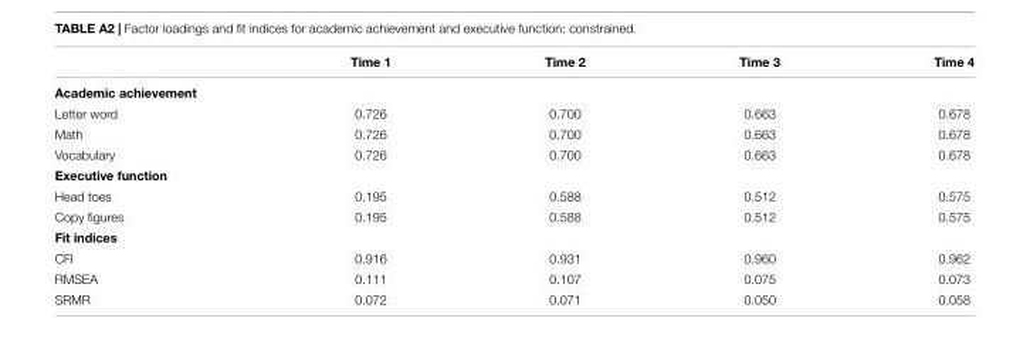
<table><thead><tr><td></td><td>Time 1</td><td>Time 2</td><td>Time 3</td><td>Time 4</td></tr></thead><tbody><tr><td colspan="5">Academic achievement</td></tr><tr><td>Letter word</td><td>0.726</td><td>0.700</td><td>0.663</td><td>0.678</td></tr><tr><td>Math</td><td>0.726</td><td>0.700</td><td>0.663</td><td>0.678</td></tr><tr><td>Vocabulary</td><td>0.726</td><td>0.700</td><td>0.663</td><td>0.678</td></tr><tr><td colspan="5">Executive function</td></tr><tr><td>Head toes</td><td>0.195</td><td>0.588</td><td>0.512</td><td>0.575</td></tr><tr><td>Copy figures</td><td>0.195</td><td>0.588</td><td>0.512</td><td>0.575</td></tr><tr><td colspan="5">Fit indices</td></tr><tr><td>CFI</td><td>0.916</td><td>0.931</td><td>0.960</td><td>0.962</td></tr><tr><td>RMSEA</td><td>0.111</td><td>0.107</td><td>0.075</td><td>0.073</td></tr><tr><td>SRMR</td><td>0.072</td><td>0.071</td><td>0.050</td><td>0.058</td></tr></tbody></table>